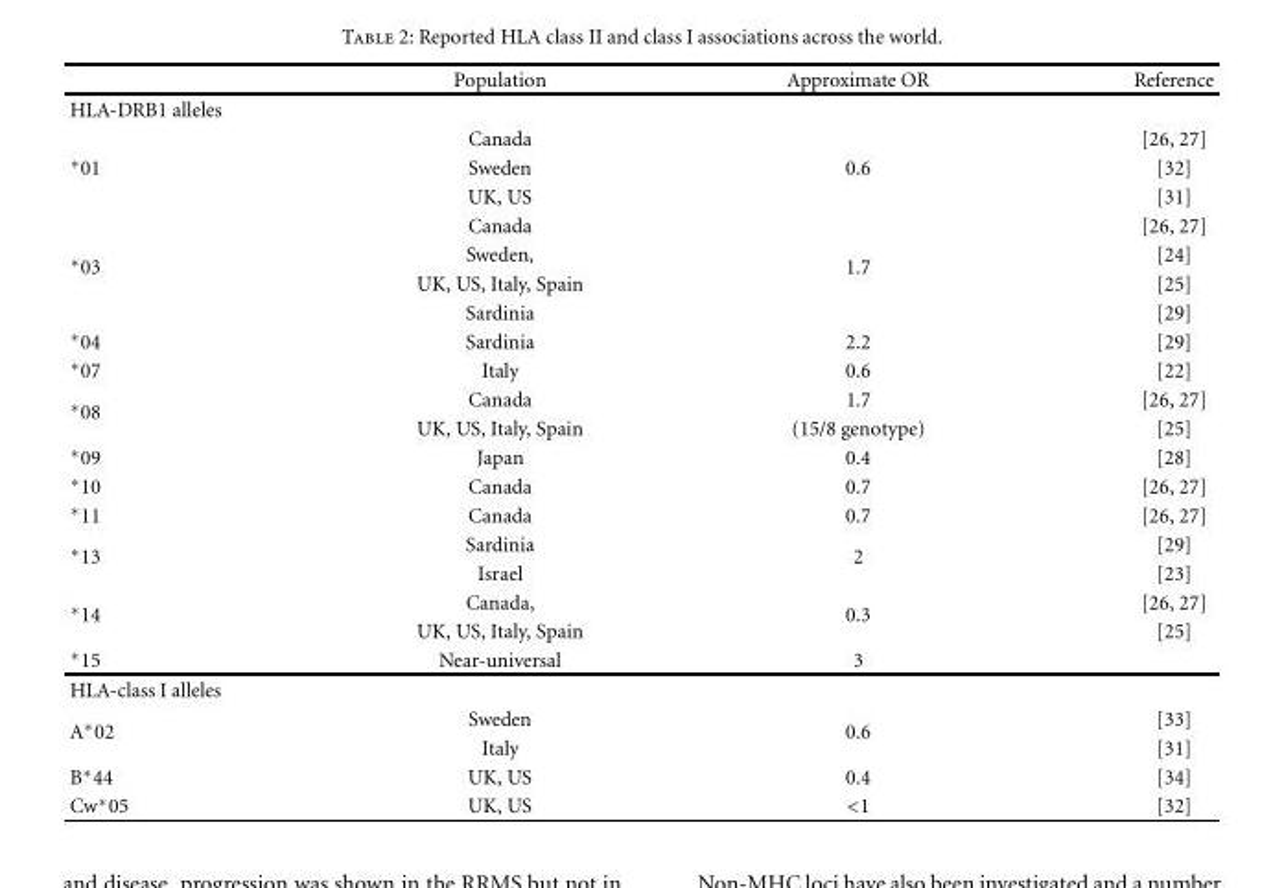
<table><thead><tr><td></td><td>Population</td><td>Approximate OR</td><td>Reference</td></tr></thead><tbody><tr><td colspan="4">HLA-DRB1 alleles</td></tr><tr><td></td><td>Canada</td><td></td><td>[26, 27]</td></tr><tr><td rowspan="2">∗01</td><td>Sweden</td><td>0.6</td><td>[32]</td></tr><tr><td>UK, US</td><td></td><td>[31]</td></tr><tr><td rowspan="4">∗03</td><td>Canada</td><td rowspan="4">1.7</td><td>[26, 27]</td></tr><tr><td>Sweden,</td><td>[24]</td></tr><tr><td>UK, US, Italy, Spain</td><td>[25]</td></tr><tr><td>Sardinia</td><td>[29]</td></tr><tr><td>∗04</td><td>Sardinia</td><td>2.2</td><td>[29]</td></tr><tr><td>∗07</td><td>Italy</td><td>0.6</td><td>[22]</td></tr><tr><td rowspan="2">∗08</td><td>Canada</td><td>1.7</td><td>[26, 27]</td></tr><tr><td>UK, US, Italy, Spain</td><td>(15/8 genotype)</td><td>[25]</td></tr><tr><td>∗09</td><td>Japan</td><td>0.4</td><td>[28]</td></tr><tr><td>∗10</td><td>Canada</td><td>0.7</td><td>[26, 27]</td></tr><tr><td>∗11</td><td>Canada</td><td>0.7</td><td>[26, 27]</td></tr><tr><td rowspan="2">∗13</td><td>Sardinia</td><td rowspan="2">2</td><td>[29]</td></tr><tr><td>Israel</td><td>[23]</td></tr><tr><td rowspan="2">∗14</td><td>Canada,</td><td rowspan="2">0.3</td><td>[26, 27]</td></tr><tr><td>UK, US, Italy, Spain</td><td>[25]</td></tr><tr><td>∗15</td><td>Near-universal</td><td>3</td><td></td></tr><tr><td colspan="4">HLA-class I alleles</td></tr><tr><td rowspan="2">A∗02</td><td>Sweden</td><td rowspan="2">0.6</td><td>[33]</td></tr><tr><td>Italy</td><td>[31]</td></tr><tr><td>B∗44</td><td>UK, US</td><td>0.4</td><td>[34]</td></tr><tr><td>Cw∗05</td><td>UK, US</td><td>&lt;1</td><td>[32]</td></tr></tbody></table>